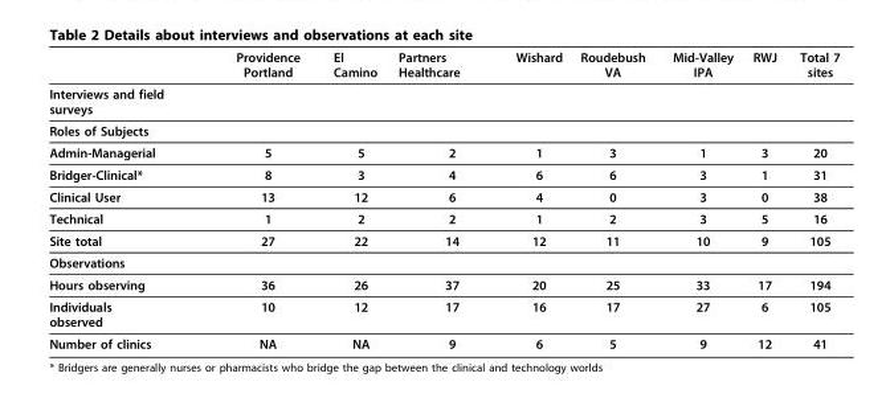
<table><thead><tr><td></td><td>Providence Portland</td><td>El Camino</td><td>Partners Healthcare</td><td>Wishard</td><td>Roudebush VA</td><td>Mid-Valley IPA</td><td>RWJ</td><td>Total 7 sites</td></tr></thead><tbody><tr><td colspan="9">Interviews and field surveys</td></tr><tr><td colspan="9">Roles of Subjects</td></tr><tr><td>Admin-Managerial</td><td>5</td><td>5</td><td>2</td><td>1</td><td>3</td><td>1</td><td>3</td><td>20</td></tr><tr><td>Bridger-Clinical*</td><td>8</td><td>3</td><td>4</td><td>6</td><td>6</td><td>3</td><td>1</td><td>31</td></tr><tr><td>Clinical User</td><td>13</td><td>12</td><td>6</td><td>4</td><td>0</td><td>3</td><td>0</td><td>38</td></tr><tr><td>Technical</td><td>1</td><td>2</td><td>2</td><td>1</td><td>2</td><td>3</td><td>5</td><td>16</td></tr><tr><td>Site total</td><td>27</td><td>22</td><td>14</td><td>12</td><td>11</td><td>10</td><td>9</td><td>105</td></tr><tr><td colspan="9">Observations</td></tr><tr><td>Hours observing</td><td>36</td><td>26</td><td>37</td><td>20</td><td>25</td><td>33</td><td>17</td><td>194</td></tr><tr><td>Individuals observed</td><td>10</td><td>12</td><td>17</td><td>16</td><td>17</td><td>27</td><td>6</td><td>105</td></tr><tr><td>Number of clinics</td><td>NA</td><td>NA</td><td>9</td><td>6</td><td>5</td><td>9</td><td>12</td><td>41</td></tr></tbody></table>